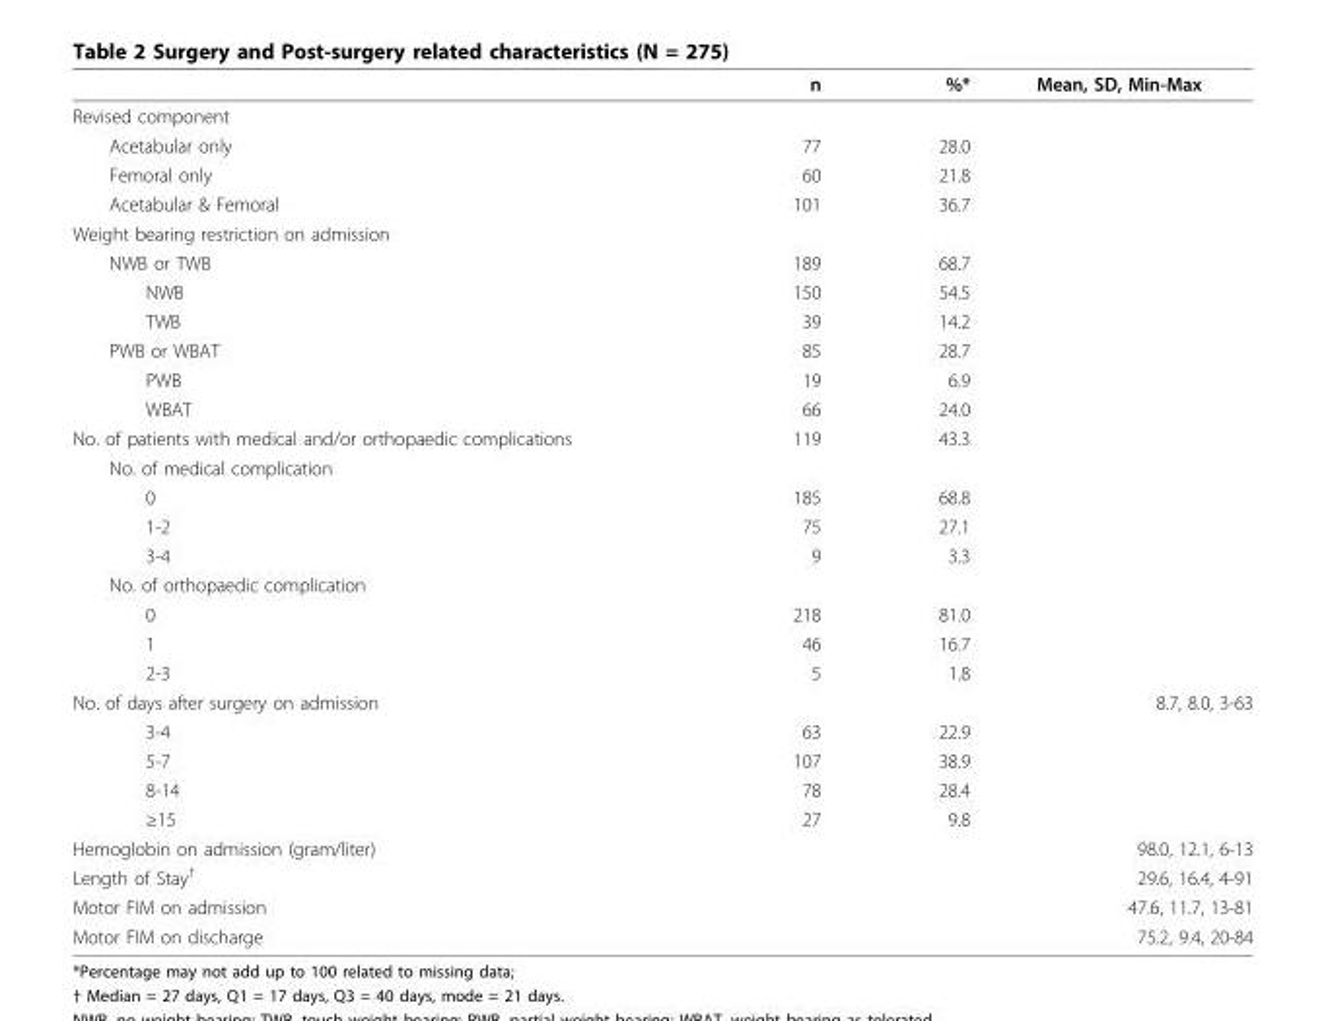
<table><thead><tr><td></td><td>n</td><td>%*</td><td>Mean, SD, Min-Max</td></tr></thead><tbody><tr><td colspan="4">Revised component</td></tr><tr><td>Acetabular only</td><td>77</td><td>28.0</td><td></td></tr><tr><td>Femoral only</td><td>60</td><td>21.8</td><td></td></tr><tr><td>Acetabular &amp; Femoral</td><td>101</td><td>36.7</td><td></td></tr><tr><td colspan="4">Weight bearing restriction on admission</td></tr><tr><td>NWB or TWB</td><td>189</td><td>68.7</td><td></td></tr><tr><td>NWB</td><td>150</td><td>54.5</td><td></td></tr><tr><td>TWB</td><td>39</td><td>14.2</td><td></td></tr><tr><td>PWB or WBAT</td><td>85</td><td>28.7</td><td></td></tr><tr><td>PWB</td><td>19</td><td>6.9</td><td></td></tr><tr><td>WBAT</td><td>66</td><td>24.0</td><td></td></tr><tr><td>No. of patients with medical and/or orthopaedic complications</td><td>119</td><td>43.3</td><td></td></tr><tr><td colspan="4">No. of medical complication</td></tr><tr><td>0</td><td>185</td><td>68.8</td><td></td></tr><tr><td>1-2</td><td>75</td><td>27.1</td><td></td></tr><tr><td>3-4</td><td>9</td><td>3.3</td><td></td></tr><tr><td colspan="4">No. of orthopaedic complication</td></tr><tr><td>0</td><td>218</td><td>81.0</td><td></td></tr><tr><td>1</td><td>46</td><td>16.7</td><td></td></tr><tr><td>2-3</td><td>5</td><td>1.8</td><td></td></tr><tr><td>No. of days after surgery on admission</td><td></td><td></td><td>8.7, 8.0, 3-63</td></tr><tr><td>3-4</td><td>63</td><td>22.9</td><td></td></tr><tr><td>5-7</td><td>107</td><td>38.9</td><td></td></tr><tr><td>8-14</td><td>78</td><td>28.4</td><td></td></tr><tr><td>≥15</td><td>27</td><td>9.8</td><td></td></tr><tr><td>Hemoglobin on admission (gram/liter)</td><td></td><td></td><td>98.0, 12.1, 6-13</td></tr><tr><td>Length of Stay<sup>†</sup></td><td></td><td></td><td>29.6, 16.4, 4-91</td></tr><tr><td>Motor FIM on admission</td><td></td><td></td><td>47.6, 11.7, 13-81</td></tr><tr><td>Motor FIM on discharge</td><td></td><td></td><td>75.2, 9.4, 20-84</td></tr></tbody></table>